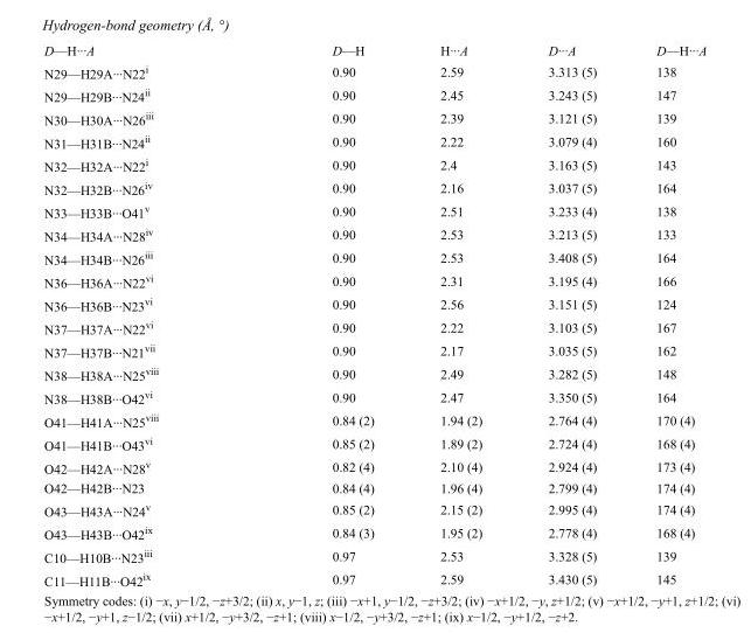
<table><tbody><tr><td>D—H···A</td><td>D—H</td><td>H···A</td><td>D···A</td><td>D—H···A</td></tr><tr><td>N29—H29A···N22<sup>i</sup></td><td>0.90</td><td>2.59</td><td>3.313 (5)</td><td>138</td></tr><tr><td>N29—H29B···N24<sup>ii</sup></td><td>0.90</td><td>2.45</td><td>3.243 (5)</td><td>147</td></tr><tr><td>N30—H30A···N26<sup>iii</sup></td><td>0.90</td><td>2.39</td><td>3.121 (5)</td><td>139</td></tr><tr><td>N31—H31B···N24<sup>ii</sup></td><td>0.90</td><td>2.22</td><td>3.079 (4)</td><td>160</td></tr><tr><td>N32—H32A···N22<sup>i</sup></td><td>0.90</td><td>2.4</td><td>3.163 (5)</td><td>143</td></tr><tr><td>N32—H32B···N26<sup>iv</sup></td><td>0.90</td><td>2.16</td><td>3.037 (5)</td><td>164</td></tr><tr><td>N33—H33B···O41<sup>v</sup></td><td>0.90</td><td>2.51</td><td>3.233 (4)</td><td>138</td></tr><tr><td>N34—H34A···N28<sup>iv</sup></td><td>0.90</td><td>2.53</td><td>3.213 (5)</td><td>133</td></tr><tr><td>N34—H34B···N26<sup>iii</sup></td><td>0.90</td><td>2.53</td><td>3.408 (5)</td><td>164</td></tr><tr><td>N36—H36A···N22<sup>vi</sup></td><td>0.90</td><td>2.31</td><td>3.195 (4)</td><td>166</td></tr><tr><td>N36—H36B···N23<sup>vi</sup></td><td>0.90</td><td>2.56</td><td>3.151 (5)</td><td>124</td></tr><tr><td>N37—H37A···N22<sup>vi</sup></td><td>0.90</td><td>2.22</td><td>3.103 (5)</td><td>167</td></tr><tr><td>N37—H37B···N21<sup>vii</sup></td><td>0.90</td><td>2.17</td><td>3.035 (5)</td><td>162</td></tr><tr><td>N38—H38A···N25<sup>viii</sup></td><td>0.90</td><td>2.49</td><td>3.282 (5)</td><td>148</td></tr><tr><td>N38—H38B···O42<sup>vi</sup></td><td>0.90</td><td>2.47</td><td>3.350 (5)</td><td>164</td></tr><tr><td>O41—H41A···N25<sup>viii</sup></td><td>0.84 (2)</td><td>1.94 (2)</td><td>2.764 (4)</td><td>170 (4)</td></tr><tr><td>O41—H41B···O43<sup>vi</sup></td><td>0.85 (2)</td><td>1.89 (2)</td><td>2.724 (4)</td><td>168 (4)</td></tr><tr><td>O42—H42A···N28<sup>v</sup></td><td>0.82 (4)</td><td>2.10 (4)</td><td>2.924 (4)</td><td>173 (4)</td></tr><tr><td>O42—H42B···N23</td><td>0.84 (4)</td><td>1.96 (4)</td><td>2.799 (4)</td><td>174 (4)</td></tr><tr><td>O43—H43A···N24<sup>v</sup></td><td>0.85 (2)</td><td>2.15 (2)</td><td>2.995 (4)</td><td>174 (4)</td></tr><tr><td>O43—H43B···O42<sup>ix</sup></td><td>0.84 (3)</td><td>1.95 (2)</td><td>2.778 (4)</td><td>168 (4)</td></tr><tr><td>C10—H10B···N23<sup>iii</sup></td><td>0.97</td><td>2.53</td><td>3.328 (5)</td><td>139</td></tr><tr><td>C11—H11B···O42<sup>ix</sup></td><td>0.97</td><td>2.59</td><td>3.430 (5)</td><td>145</td></tr></tbody></table>